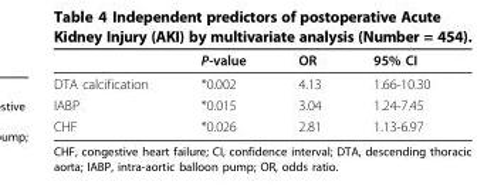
<table><thead><tr><td></td><td>P-value</td><td>OR</td><td>95% CI</td></tr></thead><tbody><tr><td>DTA calcification</td><td>*0.002</td><td>4.13</td><td>1.66-10.30</td></tr><tr><td>IABP</td><td>*0.015</td><td>3.04</td><td>1.24-7.45</td></tr><tr><td>CHF</td><td>*0.026</td><td>2.81</td><td>1.13-6.97</td></tr></tbody></table>